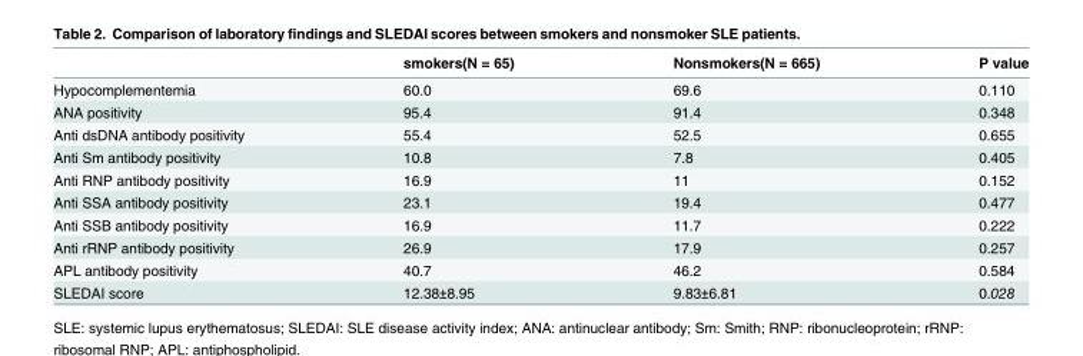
<table><thead><tr><td></td><td>smokers(N = 65)</td><td>Nonsmokers(N = 665)</td><td>P value</td></tr></thead><tbody><tr><td>Hypocomplementemia</td><td>60.0</td><td>69.6</td><td>0.110</td></tr><tr><td>ANA positivity</td><td>95.4</td><td>91.4</td><td>0.348</td></tr><tr><td>Anti dsDNA antibody positivity</td><td>55.4</td><td>52.5</td><td>0.655</td></tr><tr><td>Anti Sm antibody positivity</td><td>10.8</td><td>7.8</td><td>0.405</td></tr><tr><td>Anti RNP antibody positivity</td><td>16.9</td><td>11</td><td>0.152</td></tr><tr><td>Anti SSA antibody positivity</td><td>23.1</td><td>19.4</td><td>0.477</td></tr><tr><td>Anti SSB antibody positivity</td><td>16.9</td><td>11.7</td><td>0.222</td></tr><tr><td>Anti rRNP antibody positivity</td><td>26.9</td><td>17.9</td><td>0.257</td></tr><tr><td>APL antibody positivity</td><td>40.7</td><td>46.2</td><td>0.584</td></tr><tr><td>SLEDAI score</td><td>12.38±8.95</td><td>9.83±6.81</td><td>0.028</td></tr></tbody></table>